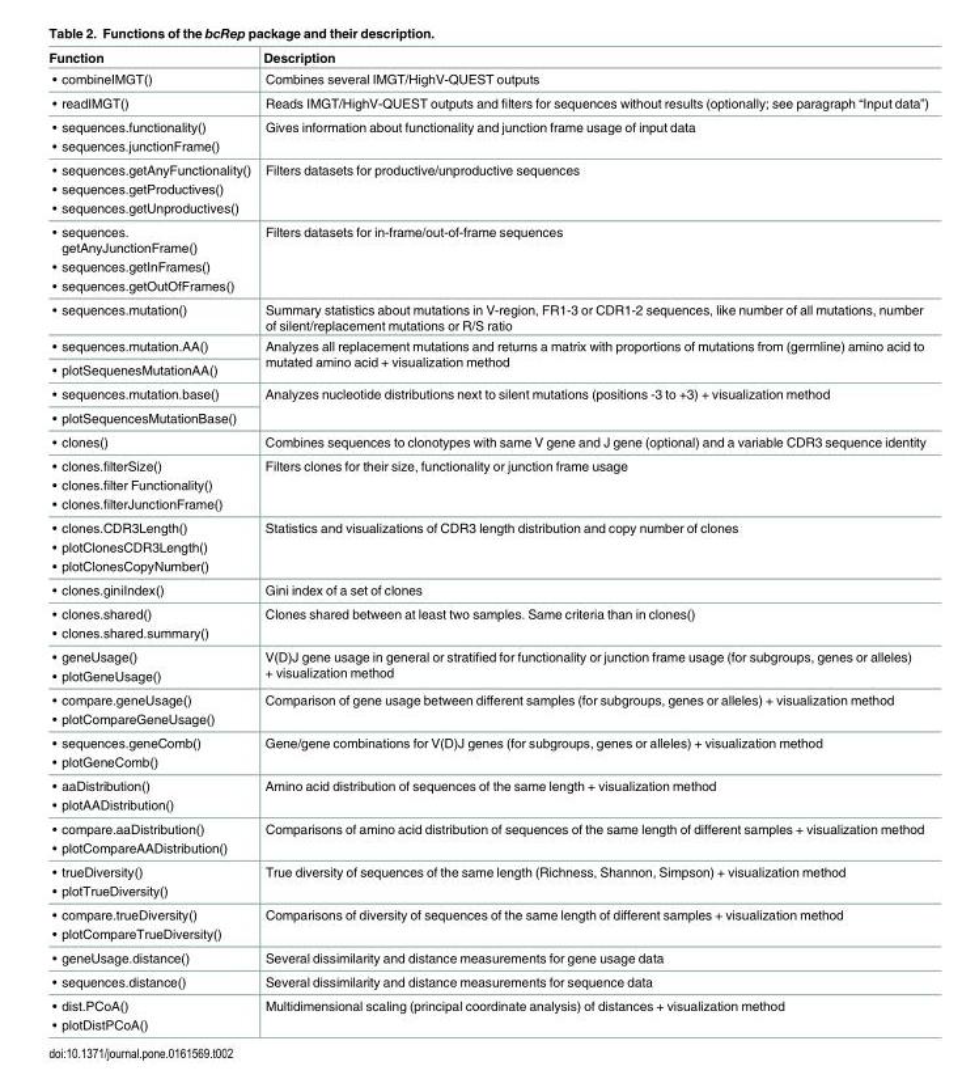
<table><thead><tr><td>Function</td><td>Description</td></tr></thead><tbody><tr><td>• combineIMGT()</td><td>Combines several IMGT/HighV-QUEST outputs</td></tr><tr><td>• readIMGT()</td><td>Reads IMGT/HighV-QUEST outputs and filters for sequences without results (optionally; see paragraph “Input data”)</td></tr><tr><td>• sequences.functionality() • sequences.junctionFrame()</td><td>Gives information about functionality and junction frame usage of input data</td></tr><tr><td>• sequences.getAnyFunctionality() • sequences.getProductives() • sequences.getUnproductives()</td><td>Filters datasets for productive/unproductive sequences</td></tr><tr><td>• sequences. getAnyJunctionFrame() • sequences.getInFrames() • sequences.getOutOfFrames()</td><td>Filters datasets for in-frame/out-of-frame sequences</td></tr><tr><td>• sequences.mutation()</td><td>Summary statistics about mutations in V-region, FR1-3 or CDR1-2 sequences, like number of all mutations, number of silent/replacement mutations or R/S ratio</td></tr><tr><td>• sequences.mutation.AA()</td><td rowspan="2">Analyzes all replacement mutations and returns a matrix with proportions of mutations from (germline) amino acid to mutated amino acid + visualization method</td></tr><tr><td>• plotSequenesMutationAA()</td></tr><tr><td>• sequences.mutation.base()</td><td rowspan="2">Analyzes nucleotide distributions next to silent mutations (positions -3 to +3) + visualization method</td></tr><tr><td>• plotSequencesMutationBase()</td></tr><tr><td>• clones()</td><td>Combines sequences to clonotypes with same V gene and J gene (optional) and a variable CDR3 sequence identity</td></tr><tr><td>• clones.filterSize() • clones.filter Functionality() • clones.filterJunctionFrame()</td><td>Filters clones for their size, functionality or junction frame usage</td></tr><tr><td>• clones.CDR3Length() • plotClonesCDR3Length() • plotClonesCopyNumber()</td><td>Statistics and visualizations of CDR3 length distribution and copy number of clones</td></tr><tr><td>• clones.giniIndex()</td><td>Gini index of a set of clones</td></tr><tr><td>• clones.shared() • clones.shared.summary()</td><td>Clones shared between at least two samples. Same criteria than in clones()</td></tr><tr><td>• geneUsage() • plotGeneUsage()</td><td>V(D)J gene usage in general or stratified for functionality or junction frame usage (for subgroups, genes or alleles) + visualization method</td></tr><tr><td>• compare.geneUsage() • plotCompareGeneUsage()</td><td>Comparison of gene usage between different samples (for subgroups, genes or alleles) + visualization method</td></tr><tr><td>• sequences.geneComb() • plotGeneComb()</td><td>Gene/gene combinations for V(D)J genes (for subgroups, genes or alleles) + visualization method</td></tr><tr><td>• aaDistribution() • plotAADistribution()</td><td>Amino acid distribution of sequences of the same length + visualization method</td></tr><tr><td>• compare.aaDistribution() • plotCompareAADistribution()</td><td>Comparisons of amino acid distribution of sequences of the same length of different samples + visualization method</td></tr><tr><td>• trueDiversity() • plotTrueDiversity()</td><td>True diversity of sequences of the same length (Richness, Shannon, Simpson) + visualization method</td></tr><tr><td>• compare.trueDiversity() • plotCompareTrueDiversity()</td><td>Comparisons of diversity of sequences of the same length of different samples + visualization method</td></tr><tr><td>• geneUsage.distance()</td><td>Several dissimilarity and distance measurements for gene usage data</td></tr><tr><td>• sequences.distance()</td><td>Several dissimilarity and distance measurements for sequence data</td></tr><tr><td>• dist.PCoA() • plotDistPCoA()</td><td>Multidimensional scaling (principal coordinate analysis) of distances + visualization method</td></tr></tbody></table>